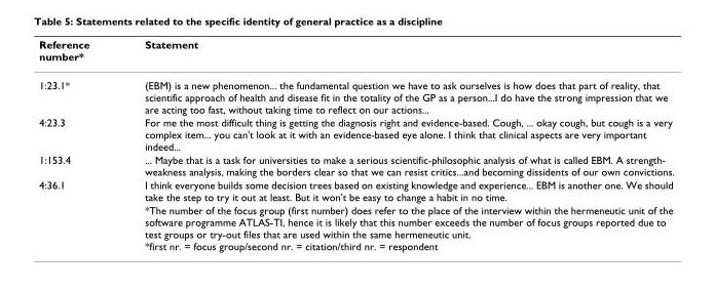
<table><thead><tr><td>Reference number*</td><td>Statement</td></tr></thead><tbody><tr><td>1:23.1*</td><td>(EBM) is a new phenomenon... the fundamental question we have to ask ourselves is how does that part of reality, that scientific approach of health and disease fit in the totality of the GP as a person...I do have the strong impression that we are acting too fast, without taking time to reflect on our actions...</td></tr><tr><td>4:23.3</td><td>For me the most difficult thing is getting the diagnosis right and evidence-based. Cough, ... okay cough, but cough is a very complex item... you can&#x27;t look at it with an evidence-based eye alone. I think that clinical aspects are very important indeed...</td></tr><tr><td>1:153.4</td><td>... Maybe that is a task for universities to make a serious scientific-philosophic analysis of what is called EBM. A strength- weakness analysis, making the borders clear so that we can resist critics...and becoming dissidents of our own convictions.</td></tr><tr><td rowspan="2">4:36.1</td><td>I think everyone builds some decision trees based on existing knowledge and experience... EBM is another one. We should take the step to try it out at least. But it won&#x27;t be easy to change a habit in no time.</td></tr><tr><td>*The number of the focus group (first number) does refer to the place of the interview within the hermeneutic unit of the software programme ATLAS-TI, hence it is likely that this number exceeds the number of focus groups reported due to test groups or try-out files that are used within the same hermeneutic unit. *first nr. = focus group/second nr. = citation/third nr. = respondent</td></tr></tbody></table>